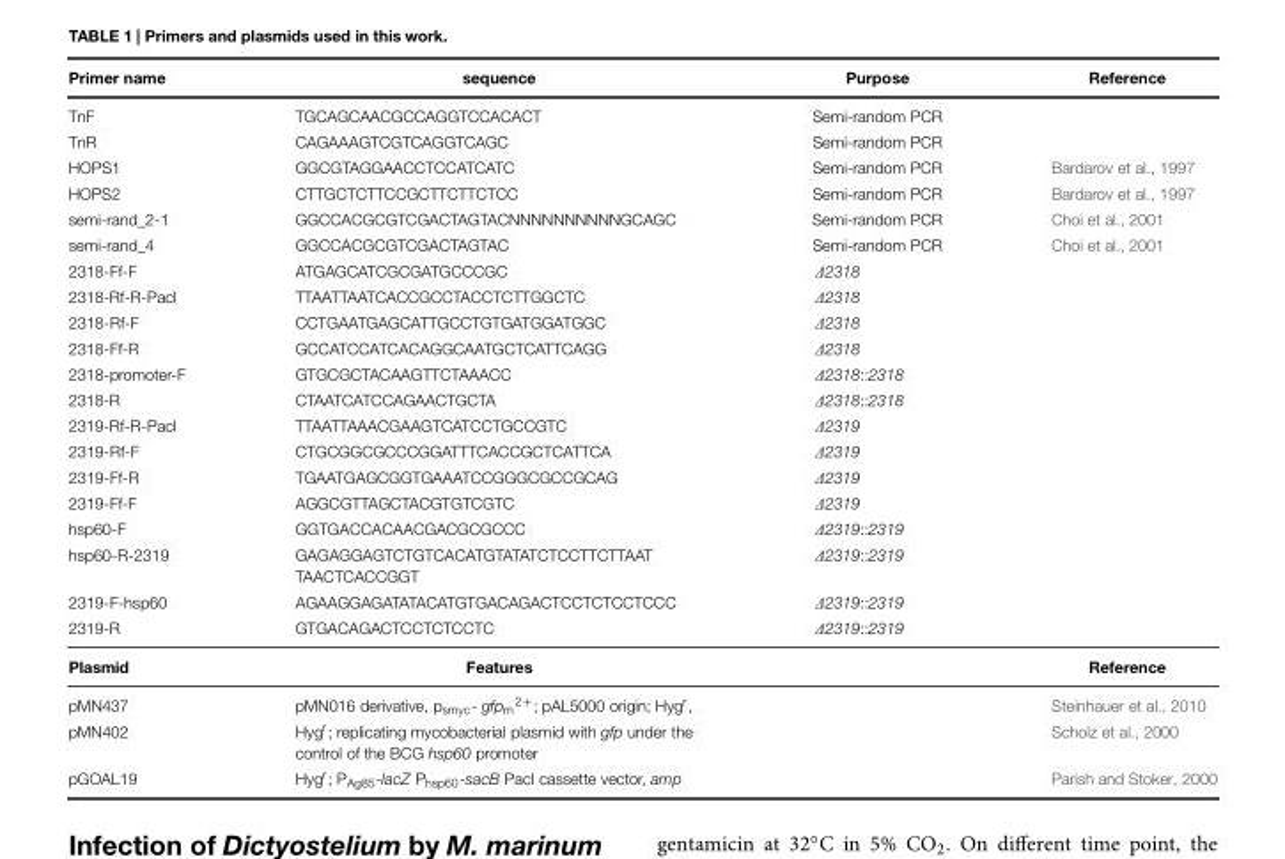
<table><thead><tr><td>Primer name</td><td>sequence</td><td>Purpose</td><td>Reference</td></tr></thead><tbody><tr><td>TnF</td><td>TGCAGCAACGCCAGGTCCACACT</td><td>Semi-random PCR</td><td></td></tr><tr><td>TnR</td><td>CAGAAAGTCGTCAGGTCAGC</td><td>Semi-random PCR</td><td></td></tr><tr><td>HOPS1</td><td>GGCGTAGGAACCTCCATCATC</td><td>Semi-random PCR</td><td>Bardarov et al., 1997</td></tr><tr><td>HOPS2</td><td>CTTGCTCTTCCGCTTCTTCTCC</td><td>Semi-random PCR</td><td>Bardarov et al., 1997</td></tr><tr><td>semi-rand_2-1</td><td>GGCCACGCGTCGACTAGTACNNNNNNNNNNGCAGC</td><td>Semi-random PCR</td><td>Choi et al., 2001</td></tr><tr><td>semi-rand_4</td><td>GGCCACGCGTCGACTAGTAC</td><td>Semi-random PCR</td><td>Choi et al., 2001</td></tr><tr><td>2318-Ff-F</td><td>ATGAGCATCGCGATGCCCGC</td><td>Δ2318</td><td></td></tr><tr><td>2318-Rf-R-PacI</td><td>TTAATTAATCACCGCCTACCTCTTGGCTC</td><td>Δ2318</td><td></td></tr><tr><td>2318-Rf-F</td><td>CCTGAATGAGCATTGCCTGTGATGGATGGC</td><td>Δ2318</td><td></td></tr><tr><td>2318-Ff-R</td><td>GCCATCCATCACAGGCAATGCTCATTCAGG</td><td>Δ2318</td><td></td></tr><tr><td>2318-promoter-F</td><td>GTGCGCTACAAGTTCTAAACC</td><td>Δ2318::2318</td><td></td></tr><tr><td>2318-R</td><td>CTAATCATCCAGAACTGCTA</td><td>Δ2318::2318</td><td></td></tr><tr><td>2319-Rf-R-PacI</td><td>TTAATTAAACGAAGTCATCCTGCCGTC</td><td>Δ2319</td><td></td></tr><tr><td>2319-Rf-F</td><td>CTGCGGCGCCCGGATTTCACCGCTCATTCA</td><td>Δ2319</td><td></td></tr><tr><td>2319-Ff-R</td><td>TGAATGAGCGGTGAAATCCGGGCGCCGCAG</td><td>Δ2319</td><td></td></tr><tr><td>2319-Ff-F</td><td>AGGCGTTAGCTACGTGTCGTC</td><td>Δ2319</td><td></td></tr><tr><td>hsp60-F</td><td>GGTGACCACAACGACGCGCCC</td><td>Δ2319::2319</td><td></td></tr><tr><td>hsp60-R-2319</td><td>GAGAGGAGTCTGTCACATGTATATCTCCTTCTTAAT TAACTCACCGGT</td><td>Δ2319::2319</td><td></td></tr><tr><td>2319-F-hsp60</td><td>AGAAGGAGATATACATGTGACAGACTCCTCTCCTCCC</td><td>Δ2319::2319</td><td></td></tr><tr><td>2319-R</td><td>GTGACAGACTCCTCTCCTC</td><td>Δ2319::2319</td><td></td></tr><tr><td>Plasmid</td><td>Features</td><td></td><td>Reference</td></tr><tr><td>pMN437</td><td>pMN016 derivative, p<sub>smyc</sub>- gfp<sub>m</sub><sup>2+</sup>; pAL5000 origin; Hyg<sup>r</sup>,</td><td></td><td>Steinhauer et al., 2010</td></tr><tr><td>pMN402</td><td>Hyg<sup>r</sup>; replicating mycobacterial plasmid with gfp under the control of the BCG hsp60 promoter</td><td></td><td>Scholz et al., 2000</td></tr><tr><td>pGOAL19</td><td>Hyg<sup>r</sup>; P<sub>Ag85</sub>-lacZ P<sub>hsp60</sub>-sacB PacI cassette vector, amp</td><td></td><td>Parish and Stoker, 2000</td></tr></tbody></table>